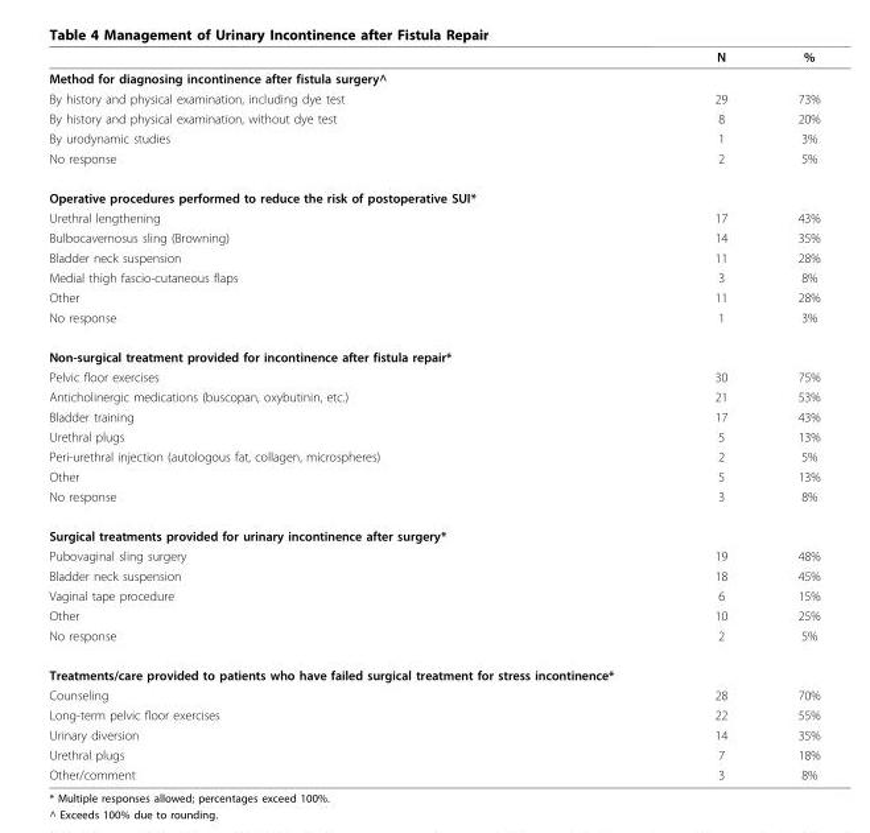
<table><thead><tr><td></td><td>N</td><td>%</td></tr></thead><tbody><tr><td colspan="3">Method for diagnosing incontinence after fistula surgery^</td></tr><tr><td>By history and physical examination, including dye test</td><td>29</td><td>73%</td></tr><tr><td>By history and physical examination, without dye test</td><td>8</td><td>20%</td></tr><tr><td>By urodynamic studies</td><td>1</td><td>3%</td></tr><tr><td>No response</td><td>2</td><td>5%</td></tr><tr><td colspan="3">Operative procedures performed to reduce the risk of postoperative SUI*</td></tr><tr><td>Urethral lengthening</td><td>17</td><td>43%</td></tr><tr><td>Bulbocavernosus sling (Browning)</td><td>14</td><td>35%</td></tr><tr><td>Bladder neck suspension</td><td>11</td><td>28%</td></tr><tr><td>Medial thigh fascio-cutaneous flaps</td><td>3</td><td>8%</td></tr><tr><td>Other</td><td>11</td><td>28%</td></tr><tr><td>No response</td><td>1</td><td>3%</td></tr><tr><td colspan="3">Non-surgical treatment provided for incontinence after fistula repair*</td></tr><tr><td>Pelvic floor exercises</td><td>30</td><td>75%</td></tr><tr><td>Anticholinergic medications (buscopan, oxybutinin, etc.)</td><td>21</td><td>53%</td></tr><tr><td>Bladder training</td><td>17</td><td>43%</td></tr><tr><td>Urethral plugs</td><td>5</td><td>13%</td></tr><tr><td>Peri-urethral injection (autologous fat, collagen, microspheres)</td><td>2</td><td>5%</td></tr><tr><td>Other</td><td>5</td><td>13%</td></tr><tr><td>No response</td><td>3</td><td>8%</td></tr><tr><td colspan="3">Surgical treatments provided for urinary incontinence after surgery*</td></tr><tr><td>Pubovaginal sling surgery</td><td>19</td><td>48%</td></tr><tr><td>Bladder neck suspension</td><td>18</td><td>45%</td></tr><tr><td>Vaginal tape procedure</td><td>6</td><td>15%</td></tr><tr><td>Other</td><td>10</td><td>25%</td></tr><tr><td>No response</td><td>2</td><td>5%</td></tr><tr><td colspan="3">Treatments/care provided to patients who have failed surgical treatment for stress incontinence*</td></tr><tr><td>Counseling</td><td>28</td><td>70%</td></tr><tr><td>Long-term pelvic floor exercises</td><td>22</td><td>55%</td></tr><tr><td>Urinary diversion</td><td>14</td><td>35%</td></tr><tr><td>Urethral plugs</td><td>7</td><td>18%</td></tr><tr><td>Other/comment</td><td>3</td><td>8%</td></tr></tbody></table>